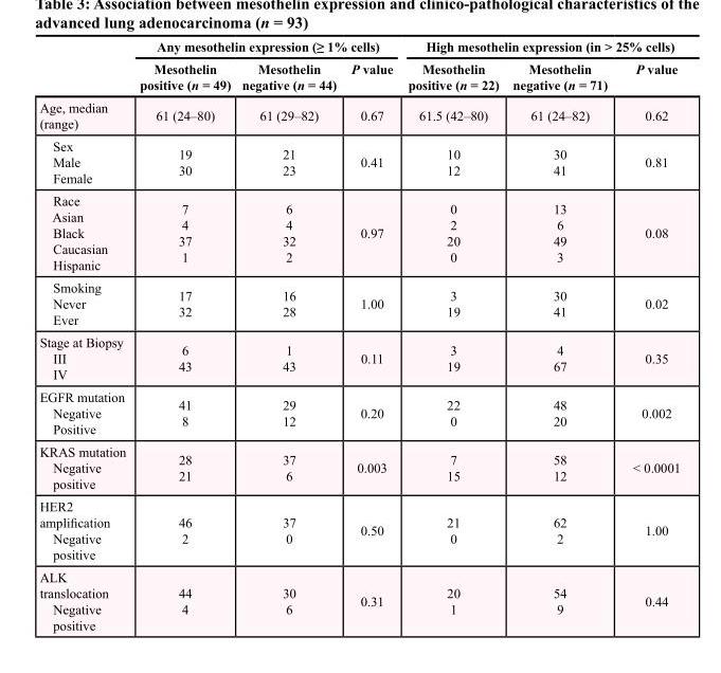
<table><thead><tr><td rowspan="2"></td><td colspan="3">Any mesothelin expression (≥ 1% cells)</td><td colspan="3">High mesothelin expression (in &gt; 25% cells)</td></tr><tr><td>Mesothelin positive (n = 49)</td><td>Mesothelin negative (n = 44)</td><td>P value</td><td>Mesothelin positive (n = 22)</td><td>Mesothelin negative (n = 71)</td><td>P value</td></tr></thead><tbody><tr><td>Age, median (range)</td><td>61 (24–80)</td><td>61 (29–82)</td><td>0.67</td><td>61.5 (42–80)</td><td>61 (24–82)</td><td>0.62</td></tr><tr><td>Sex Male Female</td><td>19 30</td><td>21 23</td><td>0.41</td><td>10 12</td><td>30 41</td><td>0.81</td></tr><tr><td>Race Asian Black Caucasian Hispanic</td><td>7 4 37 1</td><td>6 4 32 2</td><td>0.97</td><td>0 2 20 0</td><td>13 6 49 3</td><td>0.08</td></tr><tr><td>Smoking Never Ever</td><td>17 32</td><td>16 28</td><td>1.00</td><td>3 19</td><td>30 41</td><td>0.02</td></tr><tr><td>Stage at Biopsy III IV</td><td>6 43</td><td>1 43</td><td>0.11</td><td>3 19</td><td>4 67</td><td>0.35</td></tr><tr><td>EGFR mutation Negative Positive</td><td>41 8</td><td>29 12</td><td>0.20</td><td>22 0</td><td>48 20</td><td>0.002</td></tr><tr><td>KRAS mutation Negative positive</td><td>28 21</td><td>37 6</td><td>0.003</td><td>7 15</td><td>58 12</td><td>&lt; 0.0001</td></tr><tr><td>HER2 amplification Negative positive</td><td>46 2</td><td>37 0</td><td>0.50</td><td>21 0</td><td>62 2</td><td>1.00</td></tr><tr><td>ALK translocation Negative positive</td><td>44 4</td><td>30 6</td><td>0.31</td><td>20 1</td><td>54 9</td><td>0.44</td></tr></tbody></table>